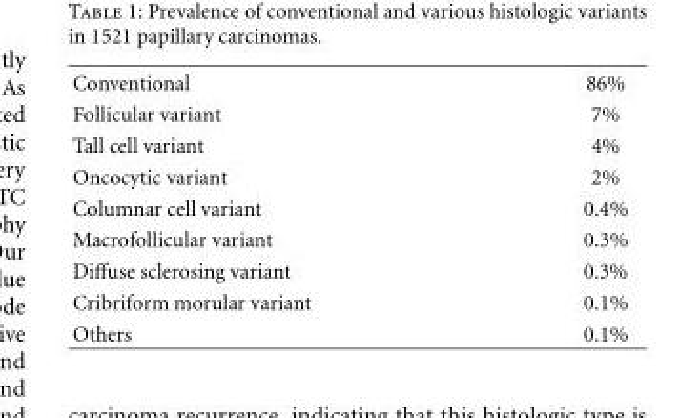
<table><tbody><tr><td>Conventional</td><td>86%</td></tr><tr><td>Follicular variant</td><td>7%</td></tr><tr><td>Tall cell variant</td><td>4%</td></tr><tr><td>Oncocytic variant</td><td>2%</td></tr><tr><td>Columnar cell variant</td><td>0.4%</td></tr><tr><td>Macrofollicular variant</td><td>0.3%</td></tr><tr><td>Diffuse sclerosing variant</td><td>0.3%</td></tr><tr><td>Cribriform morular variant</td><td>0.1%</td></tr><tr><td>Others</td><td>0.1%</td></tr></tbody></table>